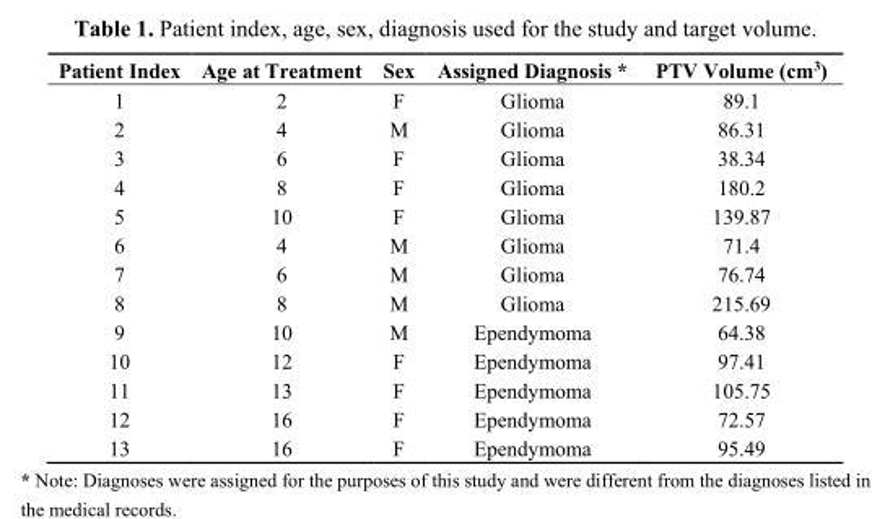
<table><thead><tr><td>Patient Index</td><td>Age at Treatment</td><td>Sex</td><td>Assigned Diagnosis *</td><td>PTV Volume (cm<sup>3</sup>)</td></tr></thead><tbody><tr><td>1</td><td>2</td><td>F</td><td>Glioma</td><td>89.1</td></tr><tr><td>2</td><td>4</td><td>M</td><td>Glioma</td><td>86.31</td></tr><tr><td>3</td><td>6</td><td>F</td><td>Glioma</td><td>38.34</td></tr><tr><td>4</td><td>8</td><td>F</td><td>Glioma</td><td>180.2</td></tr><tr><td>5</td><td>10</td><td>F</td><td>Glioma</td><td>139.87</td></tr><tr><td>6</td><td>4</td><td>M</td><td>Glioma</td><td>71.4</td></tr><tr><td>7</td><td>6</td><td>M</td><td>Glioma</td><td>76.74</td></tr><tr><td>8</td><td>8</td><td>M</td><td>Glioma</td><td>215.69</td></tr><tr><td>9</td><td>10</td><td>M</td><td>Ependymoma</td><td>64.38</td></tr><tr><td>10</td><td>12</td><td>F</td><td>Ependymoma</td><td>97.41</td></tr><tr><td>11</td><td>13</td><td>F</td><td>Ependymoma</td><td>105.75</td></tr><tr><td>12</td><td>16</td><td>F</td><td>Ependymoma</td><td>72.57</td></tr><tr><td>13</td><td>16</td><td>F</td><td>Ependymoma</td><td>95.49</td></tr></tbody></table>